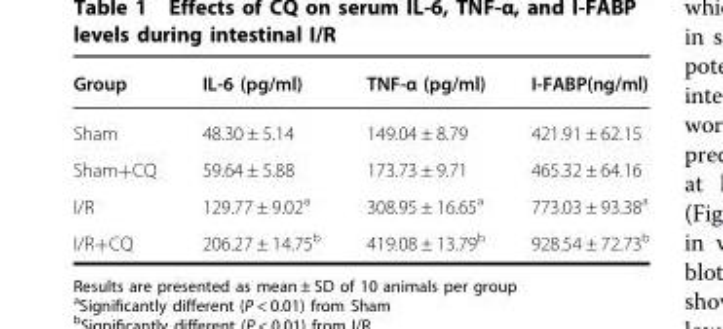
<table><thead><tr><td>Group</td><td>IL-6 (pg/ml)</td><td>TNF-α (pg/ml)</td><td>I-FABP(ng/ml)</td></tr></thead><tbody><tr><td>Sham</td><td>48.30 ± 5.14</td><td>149.04 ± 8.79</td><td>421.91 ± 62.15</td></tr><tr><td>Sham+CQ</td><td>59.64 ± 5.88</td><td>173.73 ± 9.71</td><td>465.32 ± 64.16</td></tr><tr><td>I/R</td><td>129.77 ± 9.02<sup>a</sup></td><td>308.95 ± 16.65<sup>a</sup></td><td>773.03 ± 93.38<sup>a</sup></td></tr><tr><td>I/R+CQ</td><td>206.27 ± 14.75<sup>b</sup></td><td>419.08 ± 13.79<sup>b</sup></td><td>928.54 ± 72.73<sup>b</sup></td></tr></tbody></table>